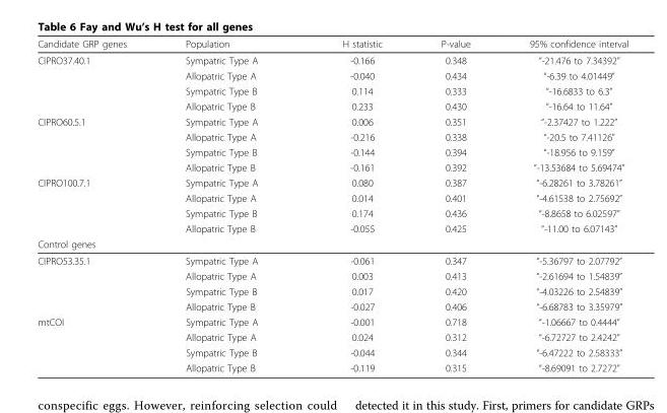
<table><thead><tr><td>Candidate GRP genes</td><td>Population</td><td>H statistic</td><td>P-value</td><td>95% confidence interval</td></tr></thead><tbody><tr><td rowspan="4">CIPRO37.40.1</td><td>Sympatric Type A</td><td>-0.166</td><td>0.348</td><td>“-21.476 to 7.34392”</td></tr><tr><td>Allopatric Type A</td><td>-0.040</td><td>0.434</td><td>“-6.39 to 4.01449”</td></tr><tr><td>Sympatric Type B</td><td>0.114</td><td>0.333</td><td>“-16.6833 to 6.3”</td></tr><tr><td>Allopatric Type B</td><td>0.233</td><td>0.430</td><td>“-16.64 to 11.64”</td></tr><tr><td rowspan="4">CIPRO60.5.1</td><td>Sympatric Type A</td><td>0.006</td><td>0.351</td><td>“-2.37427 to 1.222”</td></tr><tr><td>Allopatric Type A</td><td>-0.216</td><td>0.338</td><td>“-20.5 to 7.41126”</td></tr><tr><td>Sympatric Type B</td><td>-0.144</td><td>0.394</td><td>“-18.956 to 9.159”</td></tr><tr><td>Allopatric Type B</td><td>-0.161</td><td>0.392</td><td>“-13.53684 to 5.69474”</td></tr><tr><td rowspan="4">CIPRO100.7.1</td><td>Sympatric Type A</td><td>0.080</td><td>0.387</td><td>“-6.28261 to 3.78261”</td></tr><tr><td>Allopatric Type A</td><td>0.014</td><td>0.401</td><td>“-4.61538 to 2.75692”</td></tr><tr><td>Sympatric Type B</td><td>0.174</td><td>0.436</td><td>“-8.8658 to 6.02597”</td></tr><tr><td>Allopatric Type B</td><td>-0.055</td><td>0.425</td><td>“-11.00 to 6.07143”</td></tr><tr><td colspan="5">Control genes</td></tr><tr><td rowspan="4">CIPRO53.35.1</td><td>Sympatric Type A</td><td>-0.061</td><td>0.347</td><td>“-5.36797 to 2.07792”</td></tr><tr><td>Allopatric Type A</td><td>0.003</td><td>0.413</td><td>“-2.61694 to 1.54839”</td></tr><tr><td>Sympatric Type B</td><td>0.017</td><td>0.420</td><td>“-4.03226 to 2.54839”</td></tr><tr><td>Allopatric Type B</td><td>-0.027</td><td>0.406</td><td>“-6.68783 to 3.35979”</td></tr><tr><td rowspan="4">mtCOI</td><td>Sympatric Type A</td><td>-0.001</td><td>0.718</td><td>“-1.06667 to 0.4444”</td></tr><tr><td>Allopatric Type A</td><td>0.024</td><td>0.312</td><td>“-6.72727 to 2.4242”</td></tr><tr><td>Sympatric Type B</td><td>-0.044</td><td>0.344</td><td>“-6.47222 to 2.58333”</td></tr><tr><td>Allopatric Type B</td><td>-0.119</td><td>0.315</td><td>“-8.69091 to 2.7272”</td></tr></tbody></table>